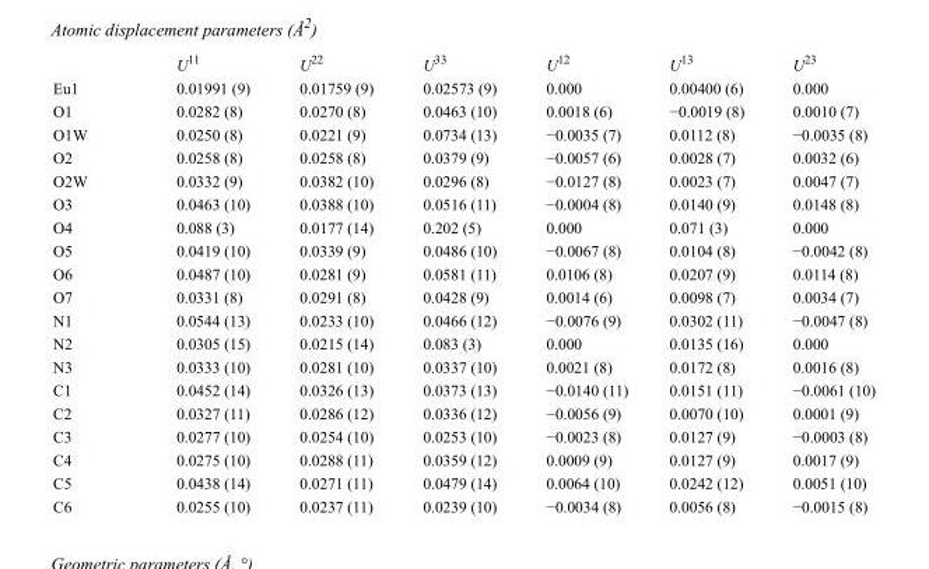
<table><thead><tr><td></td><td>U<sup>11</sup></td><td>U<sup>22</sup></td><td>U<sup>33</sup></td><td>U<sup>12</sup></td><td>U<sup>13</sup></td><td>U<sup>23</sup></td></tr></thead><tbody><tr><td>Eu1</td><td>0.01991 (9)</td><td>0.01759 (9)</td><td>0.02573 (9)</td><td>0.000</td><td>0.00400 (6)</td><td>0.000</td></tr><tr><td>O1</td><td>0.0282 (8)</td><td>0.0270 (8)</td><td>0.0463 (10)</td><td>0.0018 (6)</td><td>−0.0019 (8)</td><td>0.0010 (7)</td></tr><tr><td>O1W</td><td>0.0250 (8)</td><td>0.0221 (9)</td><td>0.0734 (13)</td><td>−0.0035 (7)</td><td>0.0112 (8)</td><td>−0.0035 (8)</td></tr><tr><td>O2</td><td>0.0258 (8)</td><td>0.0258 (8)</td><td>0.0379 (9)</td><td>−0.0057 (6)</td><td>0.0028 (7)</td><td>0.0032 (6)</td></tr><tr><td>O2W</td><td>0.0332 (9)</td><td>0.0382 (10)</td><td>0.0296 (8)</td><td>−0.0127 (8)</td><td>0.0023 (7)</td><td>0.0047 (7)</td></tr><tr><td>O3</td><td>0.0463 (10)</td><td>0.0388 (10)</td><td>0.0516 (11)</td><td>−0.0004 (8)</td><td>0.0140 (9)</td><td>0.0148 (8)</td></tr><tr><td>O4</td><td>0.088 (3)</td><td>0.0177 (14)</td><td>0.202 (5)</td><td>0.000</td><td>0.071 (3)</td><td>0.000</td></tr><tr><td>O5</td><td>0.0419 (10)</td><td>0.0339 (9)</td><td>0.0486 (10)</td><td>−0.0067 (8)</td><td>0.0104 (8)</td><td>−0.0042 (8)</td></tr><tr><td>O6</td><td>0.0487 (10)</td><td>0.0281 (9)</td><td>0.0581 (11)</td><td>0.0106 (8)</td><td>0.0207 (9)</td><td>0.0114 (8)</td></tr><tr><td>O7</td><td>0.0331 (8)</td><td>0.0291 (8)</td><td>0.0428 (9)</td><td>0.0014 (6)</td><td>0.0098 (7)</td><td>0.0034 (7)</td></tr><tr><td>N1</td><td>0.0544 (13)</td><td>0.0233 (10)</td><td>0.0466 (12)</td><td>−0.0076 (9)</td><td>0.0302 (11)</td><td>−0.0047 (8)</td></tr><tr><td>N2</td><td>0.0305 (15)</td><td>0.0215 (14)</td><td>0.083 (3)</td><td>0.000</td><td>0.0135 (16)</td><td>0.000</td></tr><tr><td>N3</td><td>0.0333 (10)</td><td>0.0281 (10)</td><td>0.0337 (10)</td><td>0.0021 (8)</td><td>0.0172 (8)</td><td>0.0016 (8)</td></tr><tr><td>C1</td><td>0.0452 (14)</td><td>0.0326 (13)</td><td>0.0373 (13)</td><td>−0.0140 (11)</td><td>0.0151 (11)</td><td>−0.0061 (10)</td></tr><tr><td>C2</td><td>0.0327 (11)</td><td>0.0286 (12)</td><td>0.0336 (12)</td><td>−0.0056 (9)</td><td>0.0070 (10)</td><td>0.0001 (9)</td></tr><tr><td>C3</td><td>0.0277 (10)</td><td>0.0254 (10)</td><td>0.0253 (10)</td><td>−0.0023 (8)</td><td>0.0127 (9)</td><td>−0.0003 (8)</td></tr><tr><td>C4</td><td>0.0275 (10)</td><td>0.0288 (11)</td><td>0.0359 (12)</td><td>0.0009 (9)</td><td>0.0127 (9)</td><td>0.0017 (9)</td></tr><tr><td>C5</td><td>0.0438 (14)</td><td>0.0271 (11)</td><td>0.0479 (14)</td><td>0.0064 (10)</td><td>0.0242 (12)</td><td>0.0051 (10)</td></tr><tr><td>C6</td><td>0.0255 (10)</td><td>0.0237 (11)</td><td>0.0239 (10)</td><td>−0.0034 (8)</td><td>0.0056 (8)</td><td>−0.0015 (8)</td></tr></tbody></table>